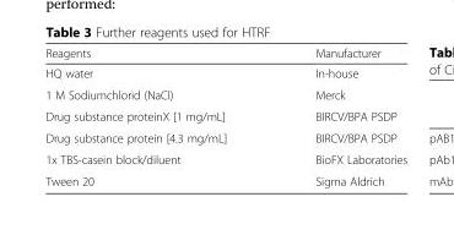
<table><thead><tr><td>Reagents</td><td>Manufacturer</td></tr></thead><tbody><tr><td>HQ water</td><td>In-house</td></tr><tr><td>1 M Sodiumchlorid (NaCl)</td><td>Merck</td></tr><tr><td>Drug substance proteinX [1 mg/mL]</td><td>BIRCV/BPA PSDP</td></tr><tr><td>Drug substance protein [4.3 mg/mL]</td><td>BIRCV/BPA PSDP</td></tr><tr><td>1x TBS-casein block/diluent</td><td>BioFX Laboratories</td></tr><tr><td>Tween 20</td><td>Sigma Aldrich</td></tr></tbody></table>